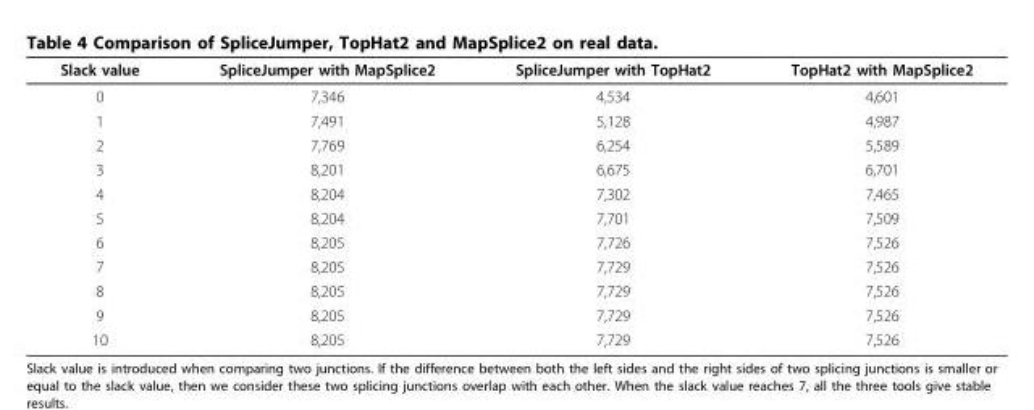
<table><thead><tr><td>Slack value</td><td>SpliceJumper with MapSplice2</td><td>SpliceJumper with TopHat2</td><td>TopHat2 with MapSplice2</td></tr></thead><tbody><tr><td>0</td><td>7,346</td><td>4,534</td><td>4,601</td></tr><tr><td>1</td><td>7,491</td><td>5,128</td><td>4,987</td></tr><tr><td>2</td><td>7,769</td><td>6,254</td><td>5,589</td></tr><tr><td>3</td><td>8,201</td><td>6,675</td><td>6,701</td></tr><tr><td>4</td><td>8,204</td><td>7,302</td><td>7,465</td></tr><tr><td>5</td><td>8,204</td><td>7,701</td><td>7,509</td></tr><tr><td>6</td><td>8,205</td><td>7,726</td><td>7,526</td></tr><tr><td>7</td><td>8,205</td><td>7,729</td><td>7,526</td></tr><tr><td>8</td><td>8,205</td><td>7,729</td><td>7,526</td></tr><tr><td>9</td><td>8,205</td><td>7,729</td><td>7,526</td></tr><tr><td>10</td><td>8,205</td><td>7,729</td><td>7,526</td></tr></tbody></table>